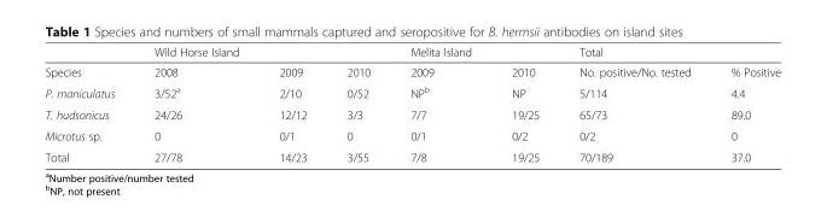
<table><thead><tr><td></td><td>Wild Horse Island</td><td></td><td></td><td>Melita Island</td><td></td><td>Total</td><td></td></tr></thead><tbody><tr><td>Species</td><td>2008</td><td>2009</td><td>2010</td><td>2009</td><td>2010</td><td>No. positive/No. tested</td><td>% Positive</td></tr><tr><td>P. maniculatus</td><td>3/52<sup>a</sup></td><td>2/10</td><td>0/52</td><td>NP<sup>b</sup></td><td>NP</td><td>5/114</td><td>4.4</td></tr><tr><td>T. hudsonicus</td><td>24/26</td><td>12/12</td><td>3/3</td><td>7/7</td><td>19/25</td><td>65/73</td><td>89.0</td></tr><tr><td>Microtus sp.</td><td>0</td><td>0/1</td><td>0</td><td>0/1</td><td>0/2</td><td>0/2</td><td>0</td></tr><tr><td>Total</td><td>27/78</td><td>14/23</td><td>3/55</td><td>7/8</td><td>19/25</td><td>70/189</td><td>37.0</td></tr></tbody></table>